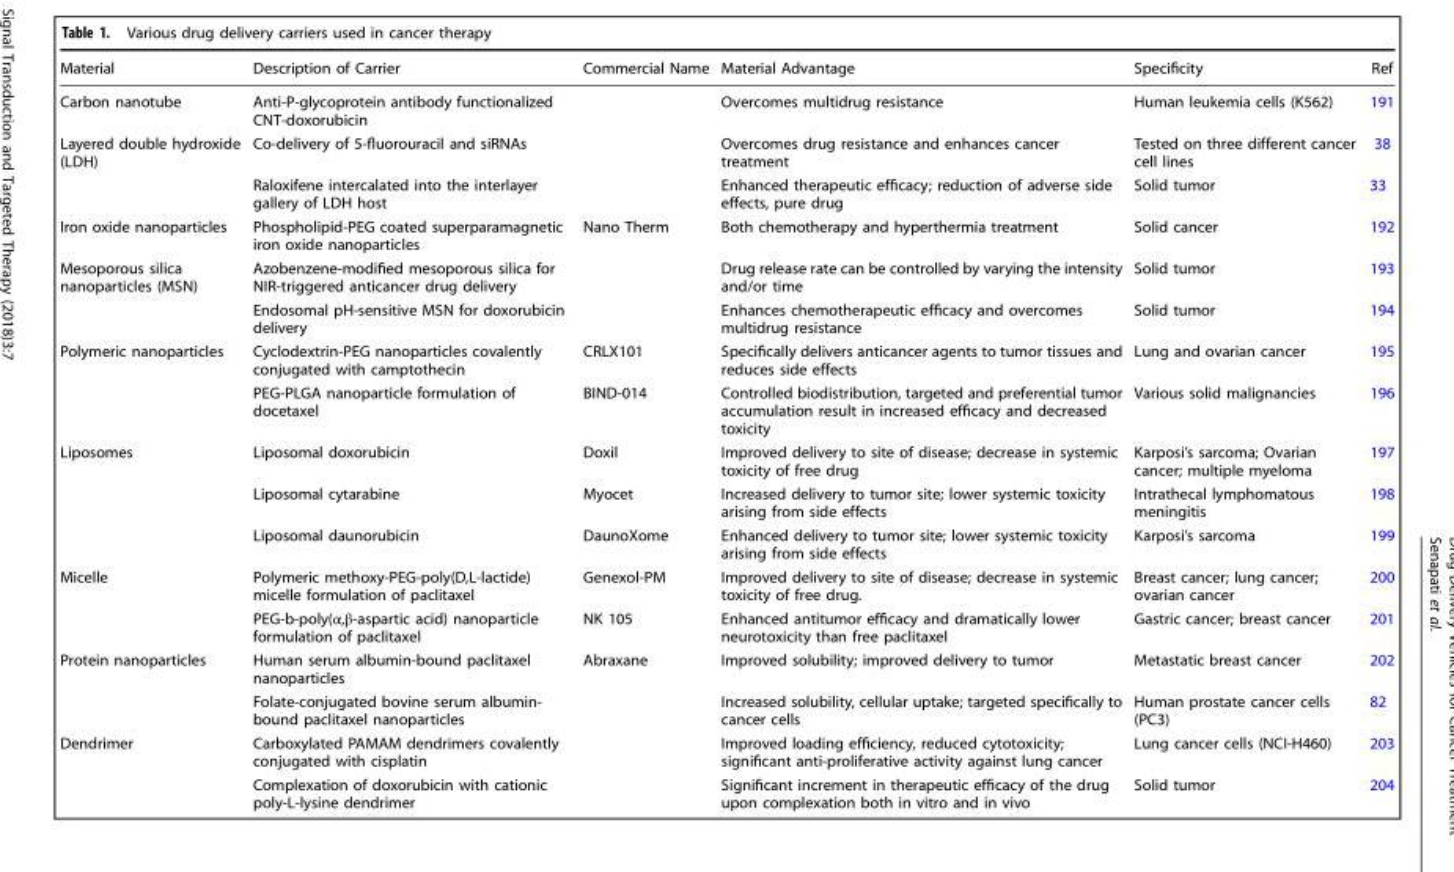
<table><thead><tr><td>Material</td><td>Description of Carrier</td><td>Commercial Name</td><td>Material Advantage</td><td>Specificity</td><td>Ref</td></tr></thead><tbody><tr><td>Carbon nanotube</td><td>Anti-P-glycoprotein antibody functionalized CNT-doxorubicin</td><td></td><td>Overcomes multidrug resistance</td><td>Human leukemia cells (K562)</td><td>191</td></tr><tr><td rowspan="2">Layered double hydroxide (LDH)</td><td>Co-delivery of 5-fluorouracil and siRNAs</td><td></td><td>Overcomes drug resistance and enhances cancer treatment</td><td>Tested on three different cancer cell lines</td><td>38</td></tr><tr><td>Raloxifene intercalated into the interlayer gallery of LDH host</td><td></td><td>Enhanced therapeutic efficacy; reduction of adverse side effects, pure drug</td><td>Solid tumor</td><td>33</td></tr><tr><td>Iron oxide nanoparticles</td><td>Phospholipid-PEG coated superparamagnetic iron oxide nanoparticles</td><td>Nano Therm</td><td>Both chemotherapy and hyperthermia treatment</td><td>Solid cancer</td><td>192</td></tr><tr><td rowspan="2">Mesoporous silica nanoparticles (MSN)</td><td>Azobenzene-modified mesoporous silica for NIR-triggered anticancer drug delivery</td><td></td><td>Drug release rate can be controlled by varying the intensity and/or time</td><td>Solid tumor</td><td>193</td></tr><tr><td>Endosomal pH-sensitive MSN for doxorubicin delivery</td><td></td><td>Enhances chemotherapeutic efficacy and overcomes multidrug resistance</td><td>Solid tumor</td><td>194</td></tr><tr><td rowspan="2">Polymeric nanoparticles</td><td>Cyclodextrin-PEG nanoparticles covalently conjugated with camptothecin</td><td>CRLX101</td><td>Specifically delivers anticancer agents to tumor tissues and reduces side effects</td><td>Lung and ovarian cancer</td><td>195</td></tr><tr><td>PEG-PLGA nanoparticle formulation of docetaxel</td><td>BIND-014</td><td>Controlled biodistribution, targeted and preferential tumor accumulation result in increased efficacy and decreased toxicity</td><td>Various solid malignancies</td><td>196</td></tr><tr><td rowspan="3">Liposomes</td><td>Liposomal doxorubicin</td><td>Doxil</td><td>Improved delivery to site of disease; decrease in systemic toxicity of free drug</td><td>Karposi’s sarcoma; Ovarian cancer; multiple myeloma</td><td>197</td></tr><tr><td>Liposomal cytarabine</td><td>Myocet</td><td>Increased delivery to tumor site; lower systemic toxicity arising from side effects</td><td>Intrathecal lymphomatous meningitis</td><td>198</td></tr><tr><td>Liposomal daunorubicin</td><td>DaunoXome</td><td>Enhanced delivery to tumor site; lower systemic toxicity arising from side effects</td><td>Karposi’s sarcoma</td><td>199</td></tr><tr><td rowspan="2">Micelle</td><td>Polymeric methoxy-PEG-poly(D,L-lactide) micelle formulation of paclitaxel</td><td>Genexol-PM</td><td>Improved delivery to site of disease; decrease in systemic toxicity of free drug.</td><td>Breast cancer; lung cancer; ovarian cancer</td><td>200</td></tr><tr><td>PEG-b-poly(α,β-aspartic acid) nanoparticle formulation of paclitaxel</td><td>NK 105</td><td>Enhanced antitumor efficacy and dramatically lower neurotoxicity than free paclitaxel</td><td>Gastric cancer; breast cancer</td><td>201</td></tr><tr><td rowspan="2">Protein nanoparticles</td><td>Human serum albumin-bound paclitaxel nanoparticles</td><td>Abraxane</td><td>Improved solubility; improved delivery to tumor</td><td>Metastatic breast cancer</td><td>202</td></tr><tr><td>Folate-conjugated bovine serum albumin- bound paclitaxel nanoparticles</td><td></td><td>Increased solubility, cellular uptake; targeted specifically to cancer cells</td><td>Human prostate cancer cells (PC3)</td><td>82</td></tr><tr><td rowspan="2">Dendrimer</td><td>Carboxylated PAMAM dendrimers covalently conjugated with cisplatin</td><td></td><td>Improved loading efficiency, reduced cytotoxicity; significant anti-proliferative activity against lung cancer</td><td>Lung cancer cells (NCI-H460)</td><td>203</td></tr><tr><td>Complexation of doxorubicin with cationic poly-L-lysine dendrimer</td><td></td><td>Significant increment in therapeutic efficacy of the drug upon complexation both in vitro and in vivo</td><td>Solid tumor</td><td>204</td></tr></tbody></table>